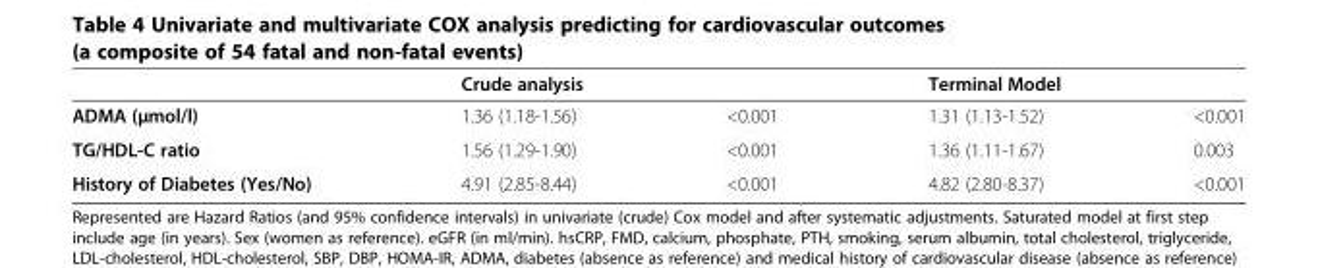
<table><thead><tr><td rowspan="2">ADMA (μmol/l)</td><td colspan="2">Crude analysis</td><td colspan="2">Terminal Model</td></tr><tr><td>1.36 (1.18-1.56)</td><td>&lt;0.001</td><td>1.31 (1.13-1.52)</td><td>&lt;0.001</td></tr></thead><tbody><tr><td>TG/HDL-C ratio</td><td>1.56 (1.29-1.90)</td><td>&lt;0.001</td><td>1.36 (1.11-1.67)</td><td>0.003</td></tr><tr><td>History of Diabetes (Yes/No)</td><td>4.91 (2.85-8.44)</td><td>&lt;0.001</td><td>4.82 (2.80-8.37)</td><td>&lt;0.001</td></tr></tbody></table>